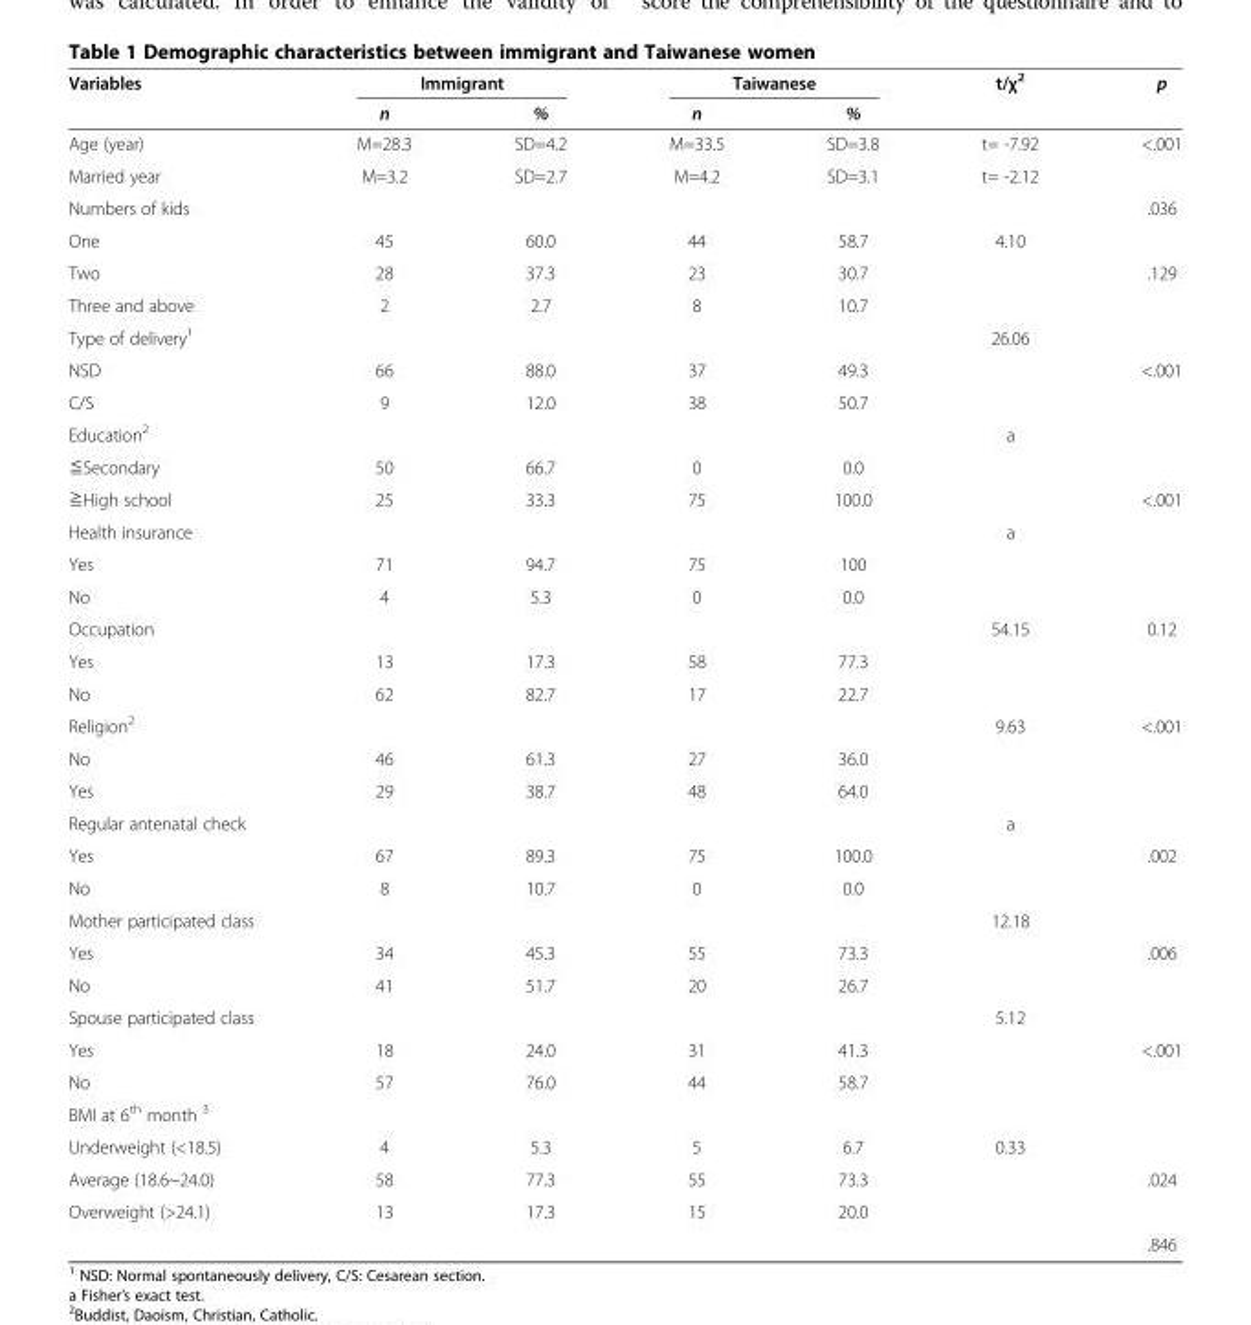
<table><thead><tr><td rowspan="2">Variables</td><td colspan="2">Immigrant</td><td colspan="2">Taiwanese</td><td rowspan="2">t/χ<sup>2</sup></td><td rowspan="2">p</td></tr><tr><td>n</td><td>%</td><td>n</td><td>%</td></tr></thead><tbody><tr><td>Age (year)</td><td>M=28.3</td><td>SD=4.2</td><td>M=33.5</td><td>SD=3.8</td><td>t= -7.92</td><td>&lt;.001</td></tr><tr><td>Married year</td><td>M=3.2</td><td>SD=2.7</td><td>M=4.2</td><td>SD=3.1</td><td>t= -2.12</td><td></td></tr><tr><td>Numbers of kids</td><td></td><td></td><td></td><td></td><td></td><td>.036</td></tr><tr><td>One</td><td>45</td><td>60.0</td><td>44</td><td>58.7</td><td>4.10</td><td></td></tr><tr><td>Two</td><td>28</td><td>37.3</td><td>23</td><td>30.7</td><td></td><td>.129</td></tr><tr><td>Three and above</td><td>2</td><td>2.7</td><td>8</td><td>10.7</td><td></td><td></td></tr><tr><td>Type of delivery<sup>1</sup></td><td></td><td></td><td></td><td></td><td>26.06</td><td></td></tr><tr><td>NSD</td><td>66</td><td>88.0</td><td>37</td><td>49.3</td><td></td><td>&lt;.001</td></tr><tr><td>C/S</td><td>9</td><td>12.0</td><td>38</td><td>50.7</td><td></td><td></td></tr><tr><td>Education<sup>2</sup></td><td></td><td></td><td></td><td></td><td>a</td><td></td></tr><tr><td>≦Secondary</td><td>50</td><td>66.7</td><td>0</td><td>0.0</td><td></td><td></td></tr><tr><td>≧High school</td><td>25</td><td>33.3</td><td>75</td><td>100.0</td><td></td><td>&lt;.001</td></tr><tr><td>Health insurance</td><td></td><td></td><td></td><td></td><td>a</td><td></td></tr><tr><td>Yes</td><td>71</td><td>94.7</td><td>75</td><td>100</td><td></td><td></td></tr><tr><td>No</td><td>4</td><td>5.3</td><td>0</td><td>0.0</td><td></td><td></td></tr><tr><td>Occupation</td><td></td><td></td><td></td><td></td><td>54.15</td><td>0.12</td></tr><tr><td>Yes</td><td>13</td><td>17.3</td><td>58</td><td>77.3</td><td></td><td></td></tr><tr><td>No</td><td>62</td><td>82.7</td><td>17</td><td>22.7</td><td></td><td></td></tr><tr><td>Religion<sup>2</sup></td><td></td><td></td><td></td><td></td><td>9.63</td><td>&lt;.001</td></tr><tr><td>No</td><td>46</td><td>61.3</td><td>27</td><td>36.0</td><td></td><td></td></tr><tr><td>Yes</td><td>29</td><td>38.7</td><td>48</td><td>64.0</td><td></td><td></td></tr><tr><td>Regular antenatal check</td><td></td><td></td><td></td><td></td><td>a</td><td></td></tr><tr><td>Yes</td><td>67</td><td>89.3</td><td>75</td><td>100.0</td><td></td><td>.002</td></tr><tr><td>No</td><td>8</td><td>10.7</td><td>0</td><td>0.0</td><td></td><td></td></tr><tr><td>Mother participated class</td><td></td><td></td><td></td><td></td><td>12.18</td><td></td></tr><tr><td>Yes</td><td>34</td><td>45.3</td><td>55</td><td>73.3</td><td></td><td>.006</td></tr><tr><td>No</td><td>41</td><td>51.7</td><td>20</td><td>26.7</td><td></td><td></td></tr><tr><td>Spouse participated class</td><td></td><td></td><td></td><td></td><td>5.12</td><td></td></tr><tr><td>Yes</td><td>18</td><td>24.0</td><td>31</td><td>41.3</td><td></td><td>&lt;.001</td></tr><tr><td>No</td><td>57</td><td>76.0</td><td>44</td><td>58.7</td><td></td><td></td></tr><tr><td colspan="7">BMI at 6<sup>th</sup> month <sup>3</sup></td></tr><tr><td>Underweight (&lt;18.5)</td><td>4</td><td>5.3</td><td>5</td><td>6.7</td><td>0.33</td><td></td></tr><tr><td>Average (18.6~24.0)</td><td>58</td><td>77.3</td><td>55</td><td>73.3</td><td></td><td>.024</td></tr><tr><td rowspan="2">Overweight (&gt;24.1)</td><td>13</td><td>17.3</td><td>15</td><td>20.0</td><td></td><td></td></tr><tr><td></td><td></td><td></td><td></td><td></td><td>.846</td></tr></tbody></table>